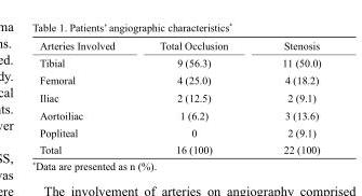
<table><thead><tr><td>Arteries Involved</td><td>Total Occlusion</td><td>Stenosis</td></tr></thead><tbody><tr><td>Tibial</td><td>9 (56.3)</td><td>11 (50.0)</td></tr><tr><td>Femoral</td><td>4 (25.0)</td><td>4 (18.2)</td></tr><tr><td>Iliac</td><td>2 (12.5)</td><td>2 (9.1)</td></tr><tr><td>Aortoiliac</td><td>1 (6.2)</td><td>3 (13.6)</td></tr><tr><td>Popliteal</td><td>0</td><td>2 (9.1)</td></tr><tr><td>Total</td><td>16 (100)</td><td>22 (100)</td></tr></tbody></table>